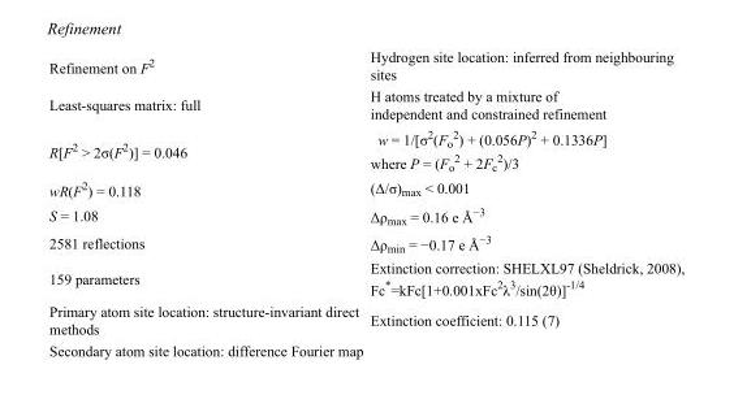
<table><tbody><tr><td>Refinement on F<sup>2</sup></td><td>Hydrogen site location: inferred from neighbouring sites</td></tr><tr><td>Least-squares matrix: full</td><td>H atoms treated by a mixture of independent and constrained refinement</td></tr><tr><td>R[F<sup>2</sup> &gt; 2σ(F<sup>2</sup>)] = 0.046</td><td>w = 1/[σ<sup>2</sup>(F<sub>o</sub> <sup>2</sup>) + (0.056P)<sup>2</sup> + 0.1336P] where P = (F<sub>o</sub> <sup>2</sup> + 2F<sub>c</sub> <sup>2</sup>)/3</td></tr><tr><td>wR(F<sup>2</sup>) = 0.118</td><td>(Δ/σ)<sub>max</sub> &lt; 0.001</td></tr><tr><td>S = 1.08</td><td>Δρ<sub>max</sub> = 0.16 e Å<sup>−3</sup></td></tr><tr><td>2581 reflections</td><td>Δρ<sub>min</sub> = −0.17 e Å<sup>−3</sup></td></tr><tr><td>159 parameters</td><td>Extinction correction: SHELXL97 (Sheldrick, 2008), Fc*=kFc[1+0.001xFc<sup>2</sup>λ<sup>3</sup>/sin(2θ)]<sup>-1/4</sup></td></tr><tr><td>Primary atom site location: structure-invariant direct methods</td><td>Extinction coefficient: 0.115 (7)</td></tr><tr><td>Secondary atom site location: difference Fourier map</td><td></td></tr></tbody></table>